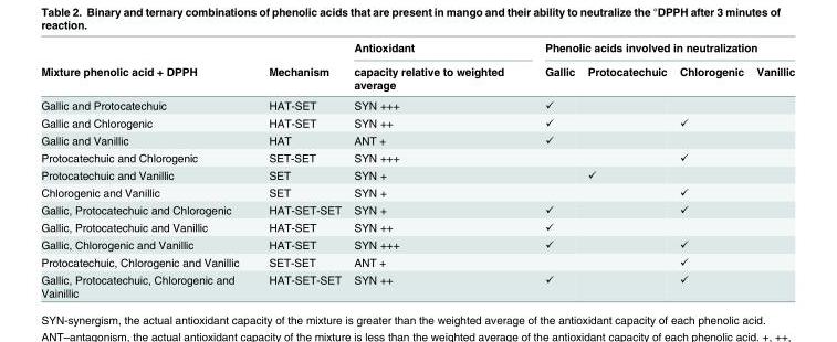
<table><thead><tr><td rowspan="2">Mixture phenolic acid + DPPH</td><td rowspan="2">Mechanism</td><td rowspan="2">Antioxidant capacity relative to weighted average</td><td colspan="4">Phenolic acids involved in neutralization</td></tr><tr><td>Gallic</td><td>Protocatechuic</td><td>Chlorogenic</td><td>Vanillic</td></tr></thead><tbody><tr><td>Gallic and Protocatechuic</td><td>HAT-SET</td><td>SYN +++</td><td>✓</td><td></td><td></td><td></td></tr><tr><td>Gallic and Chlorogenic</td><td>HAT-SET</td><td>SYN ++</td><td>✓</td><td></td><td>✓</td><td></td></tr><tr><td>Gallic and Vanillic</td><td>HAT</td><td>ANT +</td><td>✓</td><td></td><td></td><td></td></tr><tr><td>Protocatechuic and Chlorogenic</td><td>SET-SET</td><td>SYN +++</td><td></td><td></td><td>✓</td><td></td></tr><tr><td>Protocatechuic and Vanillic</td><td>SET</td><td>SYN +</td><td></td><td>✓</td><td></td><td></td></tr><tr><td>Chlorogenic and Vanillic</td><td>SET</td><td>SYN +</td><td></td><td></td><td>✓</td><td></td></tr><tr><td>Gallic, Protocatechuic and Chlorogenic</td><td>HAT-SET-SET</td><td>SYN +</td><td>✓</td><td></td><td>✓</td><td></td></tr><tr><td>Gallic, Protocatechuic and Vanillic</td><td>HAT-SET</td><td>SYN ++</td><td>✓</td><td></td><td></td><td></td></tr><tr><td>Gallic, Chlorogenic and Vanillic</td><td>HAT-SET</td><td>SYN +++</td><td>✓</td><td></td><td>✓</td><td></td></tr><tr><td>Protocatechuic, Chlorogenic and Vanillic</td><td>SET-SET</td><td>ANT +</td><td></td><td></td><td>✓</td><td></td></tr><tr><td>Gallic, Protocatechuic, Chlorogenic and Vainillic</td><td>HAT-SET-SET</td><td>SYN ++</td><td>✓</td><td></td><td>✓</td><td></td></tr></tbody></table>